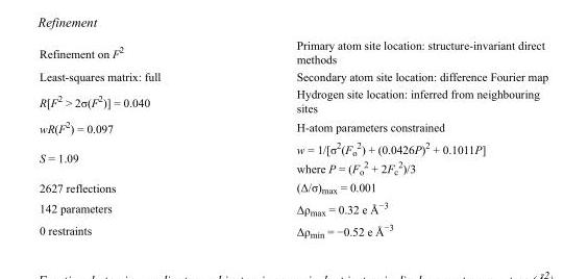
<table><tbody><tr><td>Refinement on F<sup>2</sup></td><td>Primary atom site location: structure-invariant direct methods</td></tr><tr><td>Least-squares matrix: full</td><td>Secondary atom site location: difference Fourier map</td></tr><tr><td>R[F<sup>2</sup> &gt; 2σ(F<sup>2</sup>)] = 0.040</td><td>Hydrogen site location: inferred from neighbouring sites</td></tr><tr><td>wR(F<sup>2</sup>) = 0.097</td><td>H-atom parameters constrained</td></tr><tr><td>S = 1.09</td><td>w = 1/[σ<sup>2</sup>(F<sub>o</sub> <sup>2</sup>) + (0.0426P)<sup>2</sup> + 0.1011P] where P = (F<sub>o</sub> <sup>2</sup> + 2F<sub>c</sub> <sup>2</sup>)/3</td></tr><tr><td>2627 reflections</td><td>(Δ/σ)<sub>max</sub> = 0.001</td></tr><tr><td>142 parameters</td><td>Δρ<sub>max</sub> = 0.32 e Å<sup>−3</sup></td></tr><tr><td>0 restraints</td><td>Δρ<sub>min</sub> = −0.52 e Å<sup>−3</sup></td></tr></tbody></table>